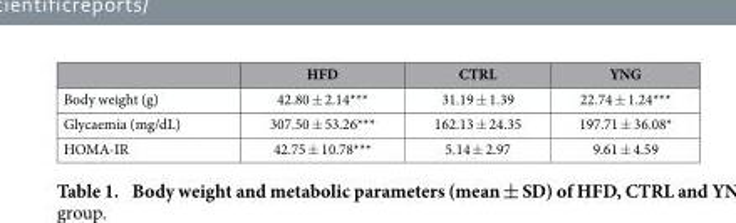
<table><thead><tr><td></td><td>HFD</td><td>CTRL</td><td>YNG</td></tr></thead><tbody><tr><td>Body weight (g)</td><td>42.80 ± 2.14***</td><td>31.19 ± 1.39</td><td>22.74 ± 1.24***</td></tr><tr><td>Glycaemia (mg/dL)</td><td>307.50 ± 53.26***</td><td>162.13 ± 24.35</td><td>197.71 ± 36.08*</td></tr><tr><td>HOMA-IR</td><td>42.75 ± 10.78***</td><td>5.14 ± 2.97</td><td>9.61 ± 4.59</td></tr></tbody></table>